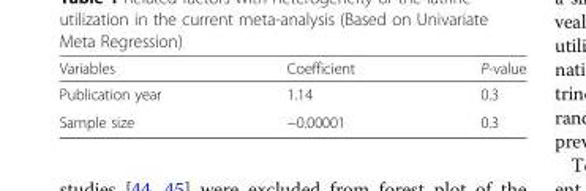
<table><thead><tr><td>Variables</td><td>Coefficient</td><td>P-value</td></tr></thead><tbody><tr><td>Publication year</td><td>1.14</td><td>0.3</td></tr><tr><td>Sample size</td><td>−0.00001</td><td>0.3</td></tr></tbody></table>